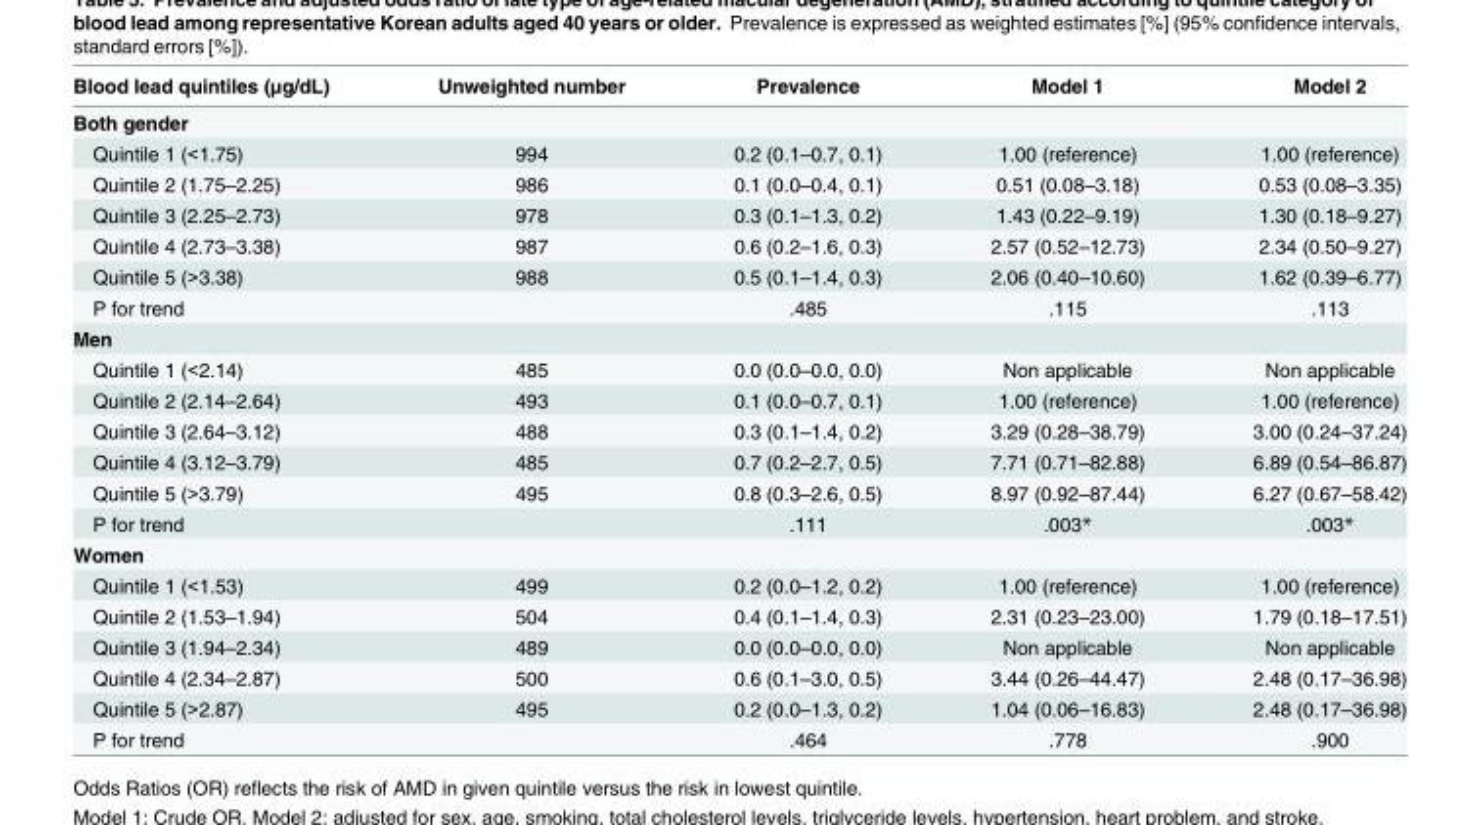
<table><thead><tr><td>Blood lead quintiles (μg/dL)</td><td>Unweighted number</td><td>Prevalence</td><td>Model 1</td><td>Model 2</td></tr></thead><tbody><tr><td colspan="5">Both gender</td></tr><tr><td>Quintile 1 (&lt;1.75)</td><td>994</td><td>0.2 (0.1–0.7, 0.1)</td><td>1.00 (reference)</td><td>1.00 (reference)</td></tr><tr><td>Quintile 2 (1.75–2.25)</td><td>986</td><td>0.1 (0.0–0.4, 0.1)</td><td>0.51 (0.08–3.18)</td><td>0.53 (0.08–3.35)</td></tr><tr><td>Quintile 3 (2.25–2.73)</td><td>978</td><td>0.3 (0.1–1.3, 0.2)</td><td>1.43 (0.22–9.19)</td><td>1.30 (0.18–9.27)</td></tr><tr><td>Quintile 4 (2.73–3.38)</td><td>987</td><td>0.6 (0.2–1.6, 0.3)</td><td>2.57 (0.52–12.73)</td><td>2.34 (0.50–9.27)</td></tr><tr><td>Quintile 5 (&gt;3.38)</td><td>988</td><td>0.5 (0.1–1.4, 0.3)</td><td>2.06 (0.40–10.60)</td><td>1.62 (0.39–6.77)</td></tr><tr><td>P for trend</td><td></td><td>.485</td><td>.115</td><td>.113</td></tr><tr><td colspan="5">Men</td></tr><tr><td>Quintile 1 (&lt;2.14)</td><td>485</td><td>0.0 (0.0–0.0, 0.0)</td><td>Non applicable</td><td>Non applicable</td></tr><tr><td>Quintile 2 (2.14–2.64)</td><td>493</td><td>0.1 (0.0–0.7, 0.1)</td><td>1.00 (reference)</td><td>1.00 (reference)</td></tr><tr><td>Quintile 3 (2.64–3.12)</td><td>488</td><td>0.3 (0.1–1.4, 0.2)</td><td>3.29 (0.28–38.79)</td><td>3.00 (0.24–37.24)</td></tr><tr><td>Quintile 4 (3.12–3.79)</td><td>485</td><td>0.7 (0.2–2.7, 0.5)</td><td>7.71 (0.71–82.88)</td><td>6.89 (0.54–86.87)</td></tr><tr><td>Quintile 5 (&gt;3.79)</td><td>495</td><td>0.8 (0.3–2.6, 0.5)</td><td>8.97 (0.92–87.44)</td><td>6.27 (0.67–58.42)</td></tr><tr><td>P for trend</td><td></td><td>.111</td><td>.003*</td><td>.003*</td></tr><tr><td colspan="5">Women</td></tr><tr><td>Quintile 1 (&lt;1.53)</td><td>499</td><td>0.2 (0.0–1.2, 0.2)</td><td>1.00 (reference)</td><td>1.00 (reference)</td></tr><tr><td>Quintile 2 (1.53–1.94)</td><td>504</td><td>0.4 (0.1–1.4, 0.3)</td><td>2.31 (0.23–23.00)</td><td>1.79 (0.18–17.51)</td></tr><tr><td>Quintile 3 (1.94–2.34)</td><td>489</td><td>0.0 (0.0–0.0, 0.0)</td><td>Non applicable</td><td>Non applicable</td></tr><tr><td>Quintile 4 (2.34–2.87)</td><td>500</td><td>0.6 (0.1–3.0, 0.5)</td><td>3.44 (0.26–44.47)</td><td>2.48 (0.17–36.98)</td></tr><tr><td>Quintile 5 (&gt;2.87)</td><td>495</td><td>0.2 (0.0–1.3, 0.2)</td><td>1.04 (0.06–16.83)</td><td>2.48 (0.17–36.98)</td></tr><tr><td>P for trend</td><td></td><td>.464</td><td>.778</td><td>.900</td></tr></tbody></table>